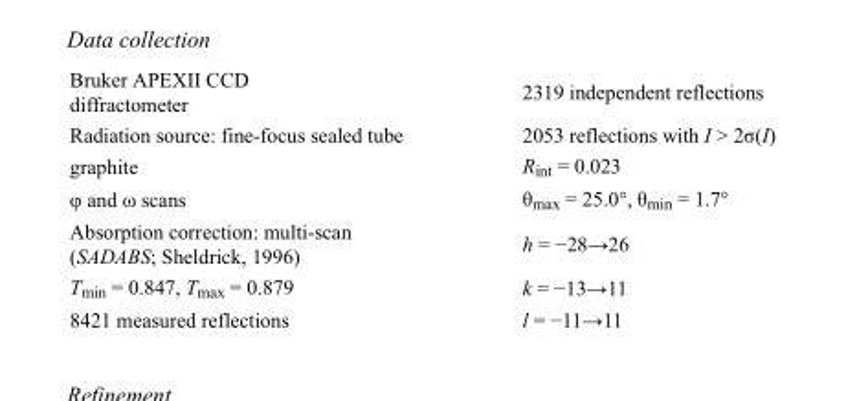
<table><tbody><tr><td>Bruker APEXII CCD diffractometer</td><td>2319 independent reflections</td></tr><tr><td>Radiation source: fine-focus sealed tube</td><td>2053 reflections with I &gt; 2σ(I)</td></tr><tr><td>graphite</td><td>R<sub>int</sub> = 0.023</td></tr><tr><td>φ and ω scans</td><td>θ<sub>max</sub> = 25.0°, θ<sub>min</sub> = 1.7°</td></tr><tr><td>Absorption correction: multi-scan (SADABS; Sheldrick, 1996)</td><td>h = −28→26</td></tr><tr><td>T<sub>min</sub> = 0.847, T<sub>max</sub> = 0.879</td><td>k = −13→11</td></tr><tr><td>8421 measured reflections</td><td>l = −11→11</td></tr></tbody></table>